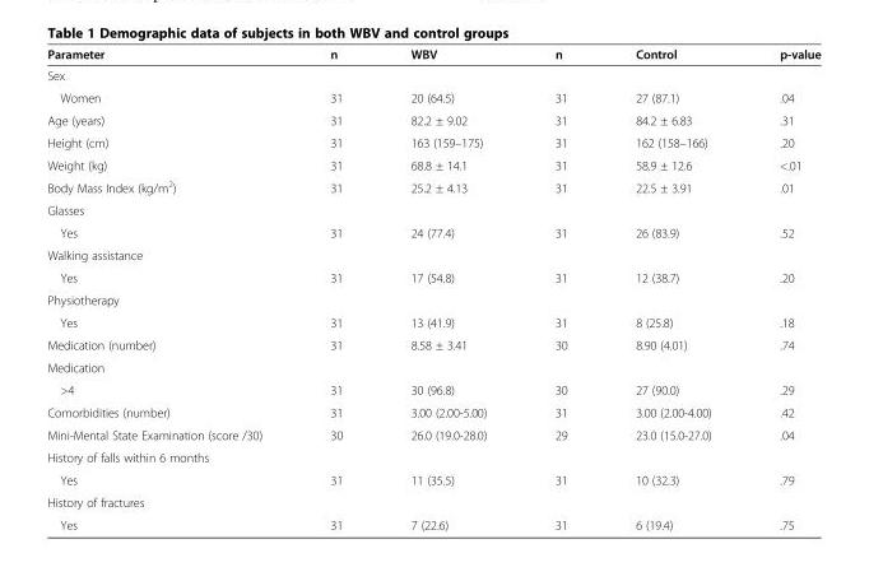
<table><thead><tr><td>Parameter</td><td>n</td><td>WBV</td><td>n</td><td>Control</td><td>p-value</td></tr></thead><tbody><tr><td colspan="6">Sex</td></tr><tr><td>Women</td><td>31</td><td>20 (64.5)</td><td>31</td><td>27 (87.1)</td><td>.04</td></tr><tr><td>Age (years)</td><td>31</td><td>82.2 ± 9.02</td><td>31</td><td>84.2 ± 6.83</td><td>.31</td></tr><tr><td>Height (cm)</td><td>31</td><td>163 (159–175)</td><td>31</td><td>162 (158–166)</td><td>.20</td></tr><tr><td>Weight (kg)</td><td>31</td><td>68.8 ± 14.1</td><td>31</td><td>58.9 ± 12.6</td><td>&lt;.01</td></tr><tr><td>Body Mass Index (kg/m<sup>2</sup>)</td><td>31</td><td>25.2 ± 4.13</td><td>31</td><td>22.5 ± 3.91</td><td>.01</td></tr><tr><td colspan="6">Glasses</td></tr><tr><td>Yes</td><td>31</td><td>24 (77.4)</td><td>31</td><td>26 (83.9)</td><td>.52</td></tr><tr><td colspan="6">Walking assistance</td></tr><tr><td>Yes</td><td>31</td><td>17 (54.8)</td><td>31</td><td>12 (38.7)</td><td>.20</td></tr><tr><td colspan="6">Physiotherapy</td></tr><tr><td>Yes</td><td>31</td><td>13 (41.9)</td><td>31</td><td>8 (25.8)</td><td>.18</td></tr><tr><td>Medication (number)</td><td>31</td><td>8.58 ± 3.41</td><td>30</td><td>8.90 (4.01)</td><td>.74</td></tr><tr><td colspan="6">Medication</td></tr><tr><td>&gt;4</td><td>31</td><td>30 (96.8)</td><td>30</td><td>27 (90.0)</td><td>.29</td></tr><tr><td>Comorbidities (number)</td><td>31</td><td>3.00 (2.00-5.00)</td><td>31</td><td>3.00 (2.00-4.00)</td><td>.42</td></tr><tr><td>Mini-Mental State Examination (score /30)</td><td>30</td><td>26.0 (19.0-28.0)</td><td>29</td><td>23.0 (15.0-27.0)</td><td>.04</td></tr><tr><td colspan="6">History of falls within 6 months</td></tr><tr><td>Yes</td><td>31</td><td>11 (35.5)</td><td>31</td><td>10 (32.3)</td><td>.79</td></tr><tr><td colspan="6">History of fractures</td></tr><tr><td>Yes</td><td>31</td><td>7 (22.6)</td><td>31</td><td>6 (19.4)</td><td>.75</td></tr></tbody></table>